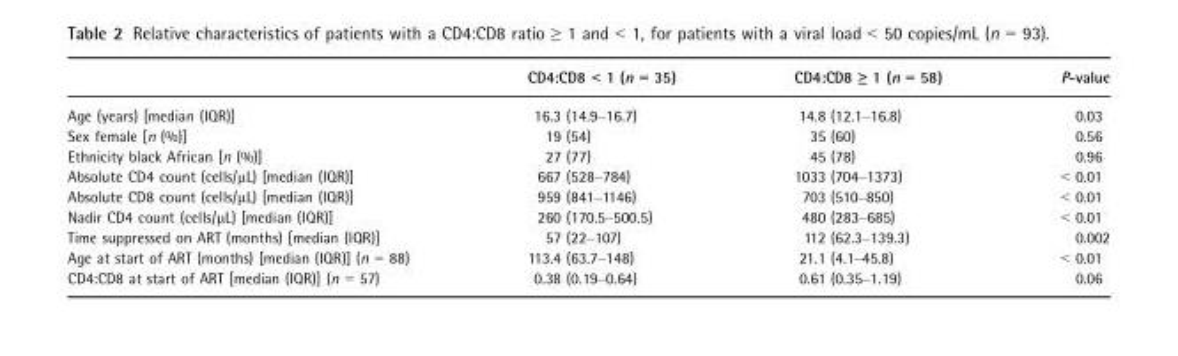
<table><thead><tr><td></td><td>CD4:CD8 &lt; 1 (n = 35)</td><td>CD4:CD8 ≥ 1 (n = 58)</td><td>P-value</td></tr></thead><tbody><tr><td>Age (years) [median (IQR)]</td><td>16.3 (14.9–16.7)</td><td>14.8 (12.1–16.8)</td><td>0.03</td></tr><tr><td>Sex female [n (%)]</td><td>19 (54)</td><td>35 (60)</td><td>0.56</td></tr><tr><td>Ethnicity black African [n (%)]</td><td>27 (77)</td><td>45 (78)</td><td>0.96</td></tr><tr><td>Absolute CD4 count (cells/μL) [median (IQR)]</td><td>667 (528–784)</td><td>1033 (704–1373)</td><td>&lt; 0.01</td></tr><tr><td>Absolute CD8 count (cells/μL) [median (IQR)]</td><td>959 (841–1146)</td><td>703 (510–850)</td><td>&lt; 0.01</td></tr><tr><td>Nadir CD4 count (cells/μL) [median (IQR)]</td><td>260 (170.5–500.5)</td><td>480 (283–685)</td><td>&lt; 0.01</td></tr><tr><td>Time suppressed on ART (months) [median (IQR)]</td><td>57 (22–107)</td><td>112 (62.3–139.3)</td><td>0.002</td></tr><tr><td>Age at start of ART (months) [median (IQR)] (n = 88)</td><td>113.4 (63.7–148)</td><td>21.1 (4.1–45.8)</td><td>&lt; 0.01</td></tr><tr><td>CD4:CD8 at start of ART [median (IQR)] (n = 57)</td><td>0.38 (0.19–0.64)</td><td>0.61 (0.35–1.19)</td><td>0.06</td></tr></tbody></table>